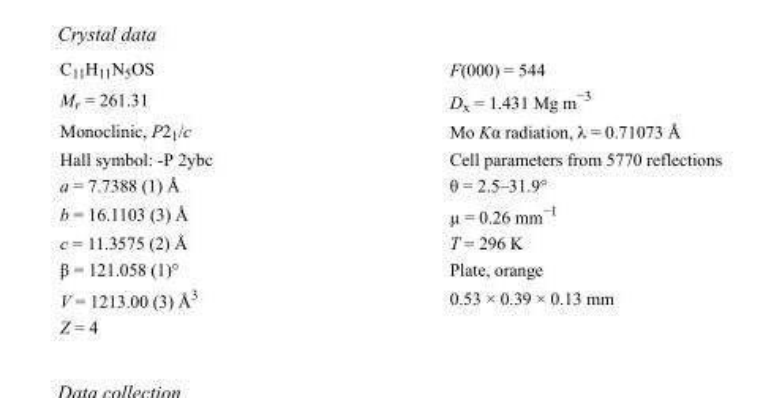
<table><tbody><tr><td>C<sub>11</sub>H<sub>11</sub>N<sub>5</sub>OS</td><td>F(000) = 544</td></tr><tr><td>M<sub>r</sub> = 261.31</td><td>D<sub>x</sub> = 1.431 Mg m<sup>−3</sup></td></tr><tr><td>Monoclinic, P2<sub>1</sub>/c</td><td>Mo Kα radiation, λ = 0.71073 Å</td></tr><tr><td>Hall symbol: -P 2ybc</td><td>Cell parameters from 5770 reflections</td></tr><tr><td>a = 7.7388 (1) Å</td><td>θ = 2.5–31.9°</td></tr><tr><td>b = 16.1103 (3) Å</td><td>µ = 0.26 mm<sup>−1</sup></td></tr><tr><td>c = 11.3575 (2) Å</td><td>T = 296 K</td></tr><tr><td>β = 121.058 (1)°</td><td>Plate, orange</td></tr><tr><td>V = 1213.00 (3) Å<sup>3</sup></td><td>0.53 × 0.39 × 0.13 mm</td></tr><tr><td>Z = 4</td><td></td></tr></tbody></table>